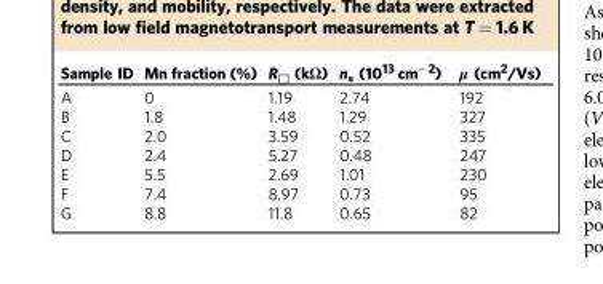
<table><thead><tr><td>Sample ID</td><td>Mn fraction (%)</td><td>R<sub>□</sub> (kΩ)</td><td>n<sub>s</sub> (10<sup>13</sup> cm<sup>−2</sup>)</td><td>μ (cm<sup>2</sup>/Vs)</td></tr></thead><tbody><tr><td>A</td><td>0</td><td>1.19</td><td>2.74</td><td>192</td></tr><tr><td>B</td><td>1.8</td><td>1.48</td><td>1.29</td><td>327</td></tr><tr><td>C</td><td>2.0</td><td>3.59</td><td>0.52</td><td>335</td></tr><tr><td>D</td><td>2.4</td><td>5.27</td><td>0.48</td><td>247</td></tr><tr><td>E</td><td>5.5</td><td>2.69</td><td>1.01</td><td>230</td></tr><tr><td>F</td><td>7.4</td><td>8.97</td><td>0.73</td><td>95</td></tr><tr><td>G</td><td>8.8</td><td>11.8</td><td>0.65</td><td>82</td></tr></tbody></table>